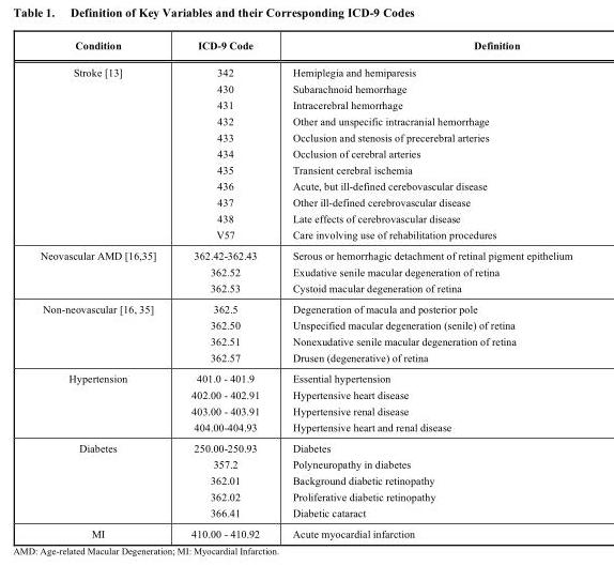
<table><thead><tr><td>Condition</td><td>ICD-9 Code</td><td>Definition</td></tr></thead><tbody><tr><td>Stroke [13]</td><td>342 430 431 432 433 434 435 436 437 438 V57</td><td>Hemiplegia and hemiparesis Subarachnoid hemorrhage Intracerebral hemorrhage Other and unspecific intracranial hemorrhage Occlusion and stenosis of precerebral arteries Occlusion of cerebral arteries Transient cerebral ischemia Acute, but ill-defined cerebovascular disease Other ill-defined cerebrovascular disease Late effects of cerebrovascular disease Care involving use of rehabilitation procedures</td></tr><tr><td>Neovascular AMD [16,35]</td><td>362.42-362.43 362.52 362.53</td><td>Serous or hemorrhagic detachment of retinal pigment epithelium Exudative senile macular degeneration of retina Cystoid macular degeneration of retina</td></tr><tr><td>Non-neovascular [16, 35]</td><td>362.5 362.50 362.51 362.57</td><td>Degeneration of macula and posterior pole Unspecified macular degeneration (senile) of retina Nonexudative senile macular degeneration of retina Drusen (degenerative) of retina</td></tr><tr><td>Hypertension</td><td>401.0 - 401.9 402.00 - 402.91 403.00 - 403.91 404.00-404.93</td><td>Essential hypertension Hypertensive heart disease Hypertensive renal disease Hypertensive heart and renal disease</td></tr><tr><td>Diabetes</td><td>250.00-250.93 357.2 362.01 362.02 366.41</td><td>Diabetes Polyneuropathy in diabetes Background diabetic retinopathy Proliferative diabetic retinopathy Diabetic cataract</td></tr><tr><td>MI</td><td>410.00 - 410.92</td><td>Acute myocardial infarction</td></tr></tbody></table>